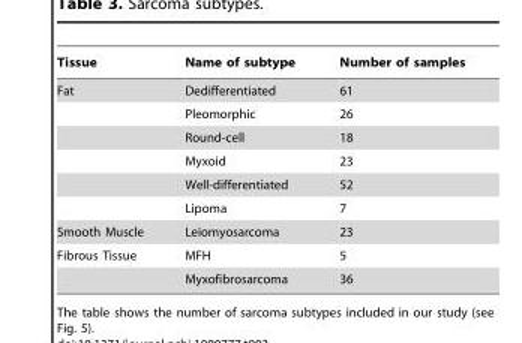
<table><thead><tr><td>Tissue</td><td>Name of subtype</td><td>Number of samples</td></tr></thead><tbody><tr><td rowspan="6">Fat</td><td>Dedifferentiated</td><td>61</td></tr><tr><td>Pleomorphic</td><td>26</td></tr><tr><td>Round-cell</td><td>18</td></tr><tr><td>Myxoid</td><td>23</td></tr><tr><td>Well-differentiated</td><td>52</td></tr><tr><td>Lipoma</td><td>7</td></tr><tr><td>Smooth Muscle</td><td>Leiomyosarcoma</td><td>23</td></tr><tr><td rowspan="2">Fibrous Tissue</td><td>MFH</td><td>5</td></tr><tr><td>Myxofibrosarcoma</td><td>36</td></tr></tbody></table>